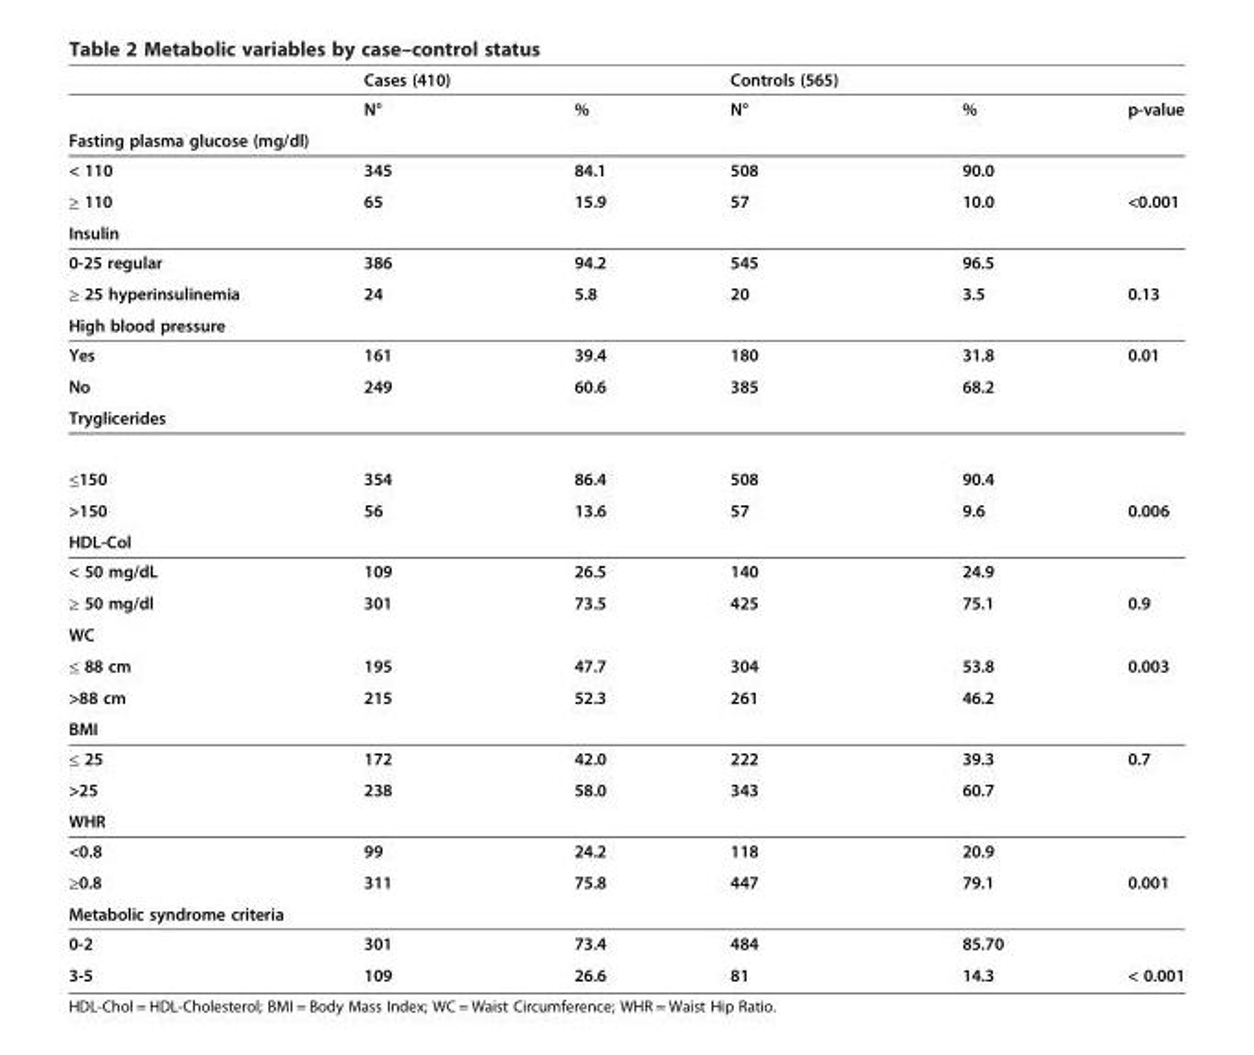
<table><thead><tr><td></td><td>Cases (410)</td><td></td><td>Controls (565)</td><td></td><td></td></tr></thead><tbody><tr><td></td><td>N°</td><td>%</td><td>N°</td><td>%</td><td>p-value</td></tr><tr><td colspan="6">Fasting plasma glucose (mg/dl)</td></tr><tr><td>&lt; 110</td><td>345</td><td>84.1</td><td>508</td><td>90.0</td><td></td></tr><tr><td>≥ 110</td><td>65</td><td>15.9</td><td>57</td><td>10.0</td><td>&lt;0.001</td></tr><tr><td colspan="6">Insulin</td></tr><tr><td>0-25 regular</td><td>386</td><td>94.2</td><td>545</td><td>96.5</td><td></td></tr><tr><td>≥ 25 hyperinsulinemia</td><td>24</td><td>5.8</td><td>20</td><td>3.5</td><td>0.13</td></tr><tr><td colspan="6">High blood pressure</td></tr><tr><td>Yes</td><td>161</td><td>39.4</td><td>180</td><td>31.8</td><td>0.01</td></tr><tr><td>No</td><td>249</td><td>60.6</td><td>385</td><td>68.2</td><td></td></tr><tr><td colspan="6">Tryglicerides</td></tr><tr><td>≤150</td><td>354</td><td>86.4</td><td>508</td><td>90.4</td><td></td></tr><tr><td>&gt;150</td><td>56</td><td>13.6</td><td>57</td><td>9.6</td><td>0.006</td></tr><tr><td colspan="6">HDL-Col</td></tr><tr><td>&lt; 50 mg/dL</td><td>109</td><td>26.5</td><td>140</td><td>24.9</td><td></td></tr><tr><td>≥ 50 mg/dl</td><td>301</td><td>73.5</td><td>425</td><td>75.1</td><td>0.9</td></tr><tr><td colspan="6">WC</td></tr><tr><td>≤ 88 cm</td><td>195</td><td>47.7</td><td>304</td><td>53.8</td><td>0.003</td></tr><tr><td>&gt;88 cm</td><td>215</td><td>52.3</td><td>261</td><td>46.2</td><td></td></tr><tr><td colspan="6">BMI</td></tr><tr><td>≤ 25</td><td>172</td><td>42.0</td><td>222</td><td>39.3</td><td>0.7</td></tr><tr><td>&gt;25</td><td>238</td><td>58.0</td><td>343</td><td>60.7</td><td></td></tr><tr><td colspan="6">WHR</td></tr><tr><td>&lt;0.8</td><td>99</td><td>24.2</td><td>118</td><td>20.9</td><td></td></tr><tr><td>≥0.8</td><td>311</td><td>75.8</td><td>447</td><td>79.1</td><td>0.001</td></tr><tr><td colspan="6">Metabolic syndrome criteria</td></tr><tr><td>0-2</td><td>301</td><td>73.4</td><td>484</td><td>85.70</td><td></td></tr><tr><td>3-5</td><td>109</td><td>26.6</td><td>81</td><td>14.3</td><td>&lt; 0.001</td></tr></tbody></table>